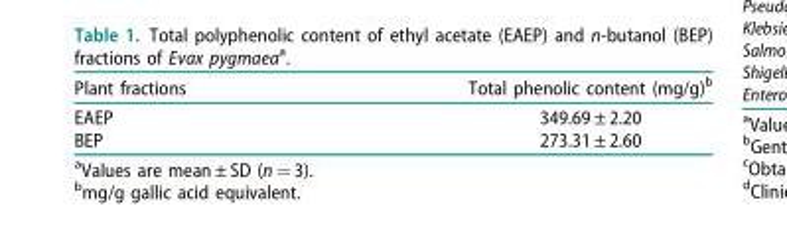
<table><thead><tr><td>Plant fractions</td><td>Total phenolic content (mg/g)<sup>b</sup></td></tr></thead><tbody><tr><td>EAEP</td><td>349.69 ± 2.20</td></tr><tr><td>BEP</td><td>273.31 ± 2.60</td></tr></tbody></table>